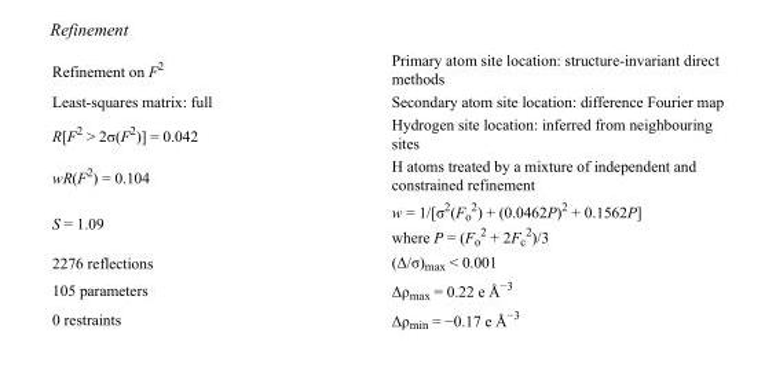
<table><tbody><tr><td>Refinement on F<sup>2</sup></td><td>Primary atom site location: structure-invariant direct methods</td></tr><tr><td>Least-squares matrix: full</td><td>Secondary atom site location: difference Fourier map</td></tr><tr><td>R[F<sup>2</sup> &gt; 2σ(F<sup>2</sup>)] = 0.042</td><td>Hydrogen site location: inferred from neighbouring sites</td></tr><tr><td>wR(F<sup>2</sup>) = 0.104</td><td>H atoms treated by a mixture of independent and constrained refinement</td></tr><tr><td>S = 1.09</td><td>w = 1/[σ<sup>2</sup>(F<sub>o</sub> <sup>2</sup>) + (0.0462P)<sup>2</sup> + 0.1562P] where P = (F<sub>o</sub> <sup>2</sup> + 2F<sub>c</sub> <sup>2</sup>)/3</td></tr><tr><td>2276 reflections</td><td>(Δ/σ)<sub>max</sub> &lt; 0.001</td></tr><tr><td>105 parameters</td><td>Δρ<sub>max</sub> = 0.22 e Å<sup>−3</sup></td></tr><tr><td>0 restraints</td><td>Δρ<sub>min</sub> = −0.17 e Å<sup>−3</sup></td></tr></tbody></table>